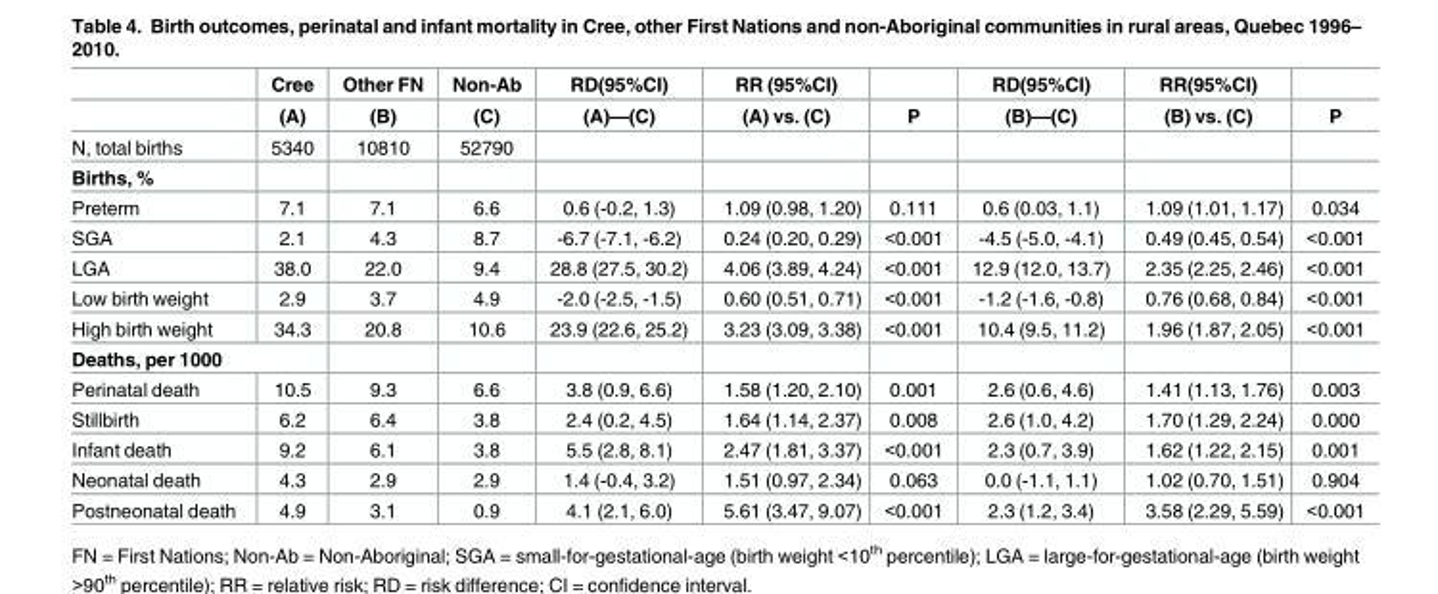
<table><thead><tr><td rowspan="2"></td><td rowspan="2">Cree (A)</td><td rowspan="2">Other FN (B)</td><td rowspan="2">Non-Ab (C)</td><td rowspan="2">RD(95%CI) (A)—(C)</td><td rowspan="2">RR (95%CI) (A) vs. (C)</td><td rowspan="2">P</td><td rowspan="2">RD(95%CI) (B)—(C)</td><td rowspan="2">RR(95%CI) (B) vs. (C)</td><td rowspan="2">P</td></tr><tr></tr></thead><tbody><tr><td>N, total births</td><td>5340</td><td>10810</td><td>52790</td><td></td><td></td><td></td><td></td><td></td><td></td></tr><tr><td colspan="10">Births, %</td></tr><tr><td>Preterm</td><td>7.1</td><td>7.1</td><td>6.6</td><td>0.6 (-0.2, 1.3)</td><td>1.09 (0.98, 1.20)</td><td>0.111</td><td>0.6 (0.03, 1.1)</td><td>1.09 (1.01, 1.17)</td><td>0.034</td></tr><tr><td>SGA</td><td>2.1</td><td>4.3</td><td>8.7</td><td>-6.7 (-7.1, -6.2)</td><td>0.24 (0.20, 0.29)</td><td>&lt;0.001</td><td>-4.5 (-5.0, -4.1)</td><td>0.49 (0.45, 0.54)</td><td>&lt;0.001</td></tr><tr><td>LGA</td><td>38.0</td><td>22.0</td><td>9.4</td><td>28.8 (27.5, 30.2)</td><td>4.06 (3.89, 4.24)</td><td>&lt;0.001</td><td>12.9 (12.0, 13.7)</td><td>2.35 (2.25, 2.46)</td><td>&lt;0.001</td></tr><tr><td>Low birth weight</td><td>2.9</td><td>3.7</td><td>4.9</td><td>-2.0 (-2.5, -1.5)</td><td>0.60 (0.51, 0.71)</td><td>&lt;0.001</td><td>-1.2 (-1.6, -0.8)</td><td>0.76 (0.68, 0.84)</td><td>&lt;0.001</td></tr><tr><td>High birth weight</td><td>34.3</td><td>20.8</td><td>10.6</td><td>23.9 (22.6, 25.2)</td><td>3.23 (3.09, 3.38)</td><td>&lt;0.001</td><td>10.4 (9.5, 11.2)</td><td>1.96 (1.87, 2.05)</td><td>&lt;0.001</td></tr><tr><td colspan="10">Deaths, per 1000</td></tr><tr><td>Perinatal death</td><td>10.5</td><td>9.3</td><td>6.6</td><td>3.8 (0.9, 6.6)</td><td>1.58 (1.20, 2.10)</td><td>0.001</td><td>2.6 (0.6, 4.6)</td><td>1.41 (1.13, 1.76)</td><td>0.003</td></tr><tr><td>Stillbirth</td><td>6.2</td><td>6.4</td><td>3.8</td><td>2.4 (0.2, 4.5)</td><td>1.64 (1.14, 2.37)</td><td>0.008</td><td>2.6 (1.0, 4.2)</td><td>1.70 (1.29, 2.24)</td><td>0.000</td></tr><tr><td>Infant death</td><td>9.2</td><td>6.1</td><td>3.8</td><td>5.5 (2.8, 8.1)</td><td>2.47 (1.81, 3.37)</td><td>&lt;0.001</td><td>2.3 (0.7, 3.9)</td><td>1.62 (1.22, 2.15)</td><td>0.001</td></tr><tr><td>Neonatal death</td><td>4.3</td><td>2.9</td><td>2.9</td><td>1.4 (-0.4, 3.2)</td><td>1.51 (0.97, 2.34)</td><td>0.063</td><td>0.0 (-1.1, 1.1)</td><td>1.02 (0.70, 1.51)</td><td>0.904</td></tr><tr><td>Postneonatal death</td><td>4.9</td><td>3.1</td><td>0.9</td><td>4.1 (2.1, 6.0)</td><td>5.61 (3.47, 9.07)</td><td>&lt;0.001</td><td>2.3 (1.2, 3.4)</td><td>3.58 (2.29, 5.59)</td><td>&lt;0.001</td></tr></tbody></table>